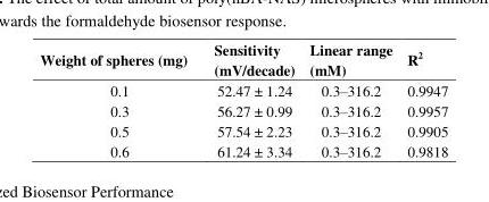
<table><thead><tr><td>Weight of spheres (mg)</td><td>Sensitivity (mV/decade)</td><td>Linear range (mM)</td><td>R<sup>2</sup></td></tr></thead><tbody><tr><td>0.1</td><td>52.47 ± 1.24</td><td>0.3–316.2</td><td>0.9947</td></tr><tr><td>0.3</td><td>56.27 ± 0.99</td><td>0.3–316.2</td><td>0.9957</td></tr><tr><td>0.5</td><td>57.54 ± 2.23</td><td>0.3–316.2</td><td>0.9905</td></tr><tr><td>0.6</td><td>61.24 ± 3.34</td><td>0.3–316.2</td><td>0.9818</td></tr></tbody></table>